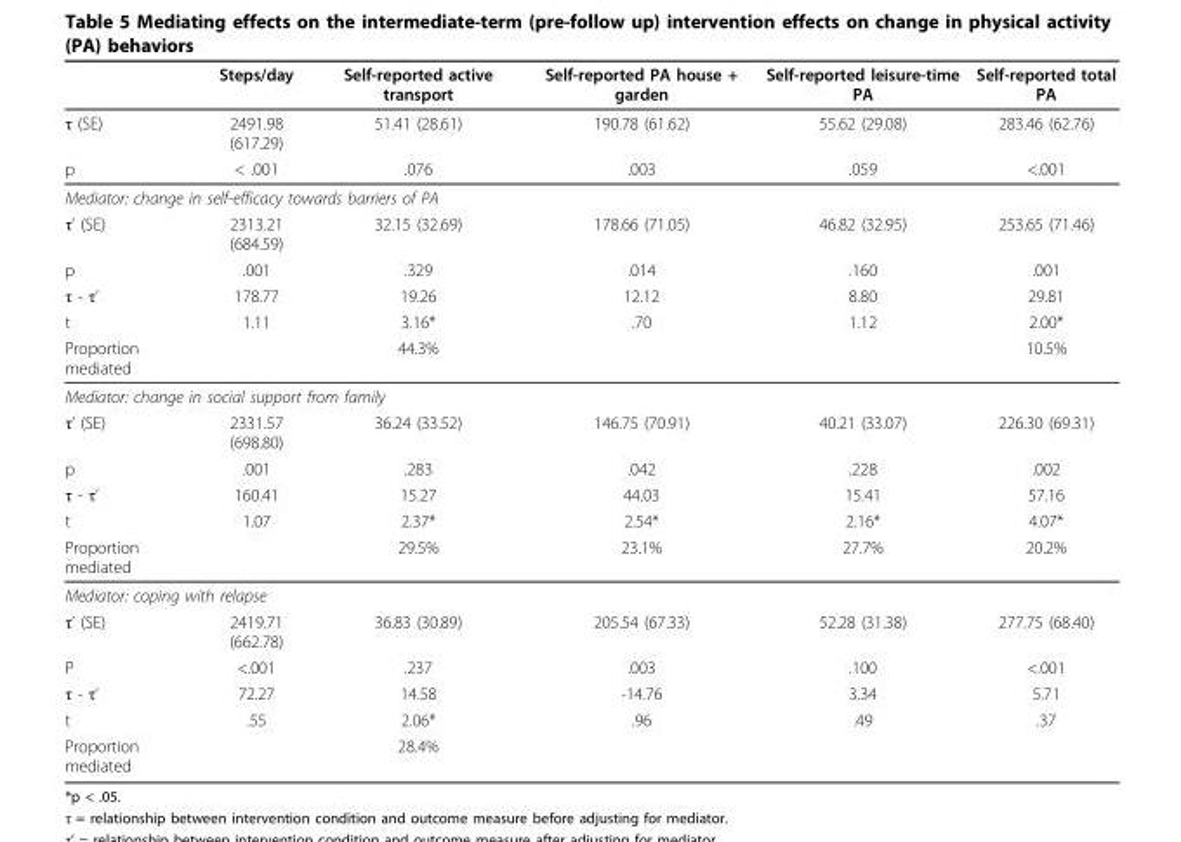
<table><thead><tr><td></td><td>Steps/day</td><td>Self-reported active transport</td><td>Self-reported PA house + garden</td><td>Self-reported leisure-time PA</td><td>Self-reported total PA</td></tr></thead><tbody><tr><td>τ (SE)</td><td>2491.98 (617.29)</td><td>51.41 (28.61)</td><td>190.78 (61.62)</td><td>55.62 (29.08)</td><td>283.46 (62.76)</td></tr><tr><td>p</td><td>&lt; .001</td><td>.076</td><td>.003</td><td>.059</td><td>&lt;.001</td></tr><tr><td colspan="6">Mediator: change in self-efficacy towards barriers of PA</td></tr><tr><td>τ’ (SE)</td><td>2313.21 (684.59)</td><td>32.15 (32.69)</td><td>178.66 (71.05)</td><td>46.82 (32.95)</td><td>253.65 (71.46)</td></tr><tr><td>p</td><td>.001</td><td>.329</td><td>.014</td><td>.160</td><td>.001</td></tr><tr><td>τ - τ’</td><td>178.77</td><td>19.26</td><td>12.12</td><td>8.80</td><td>29.81</td></tr><tr><td>t</td><td>1.11</td><td>3.16*</td><td>.70</td><td>1.12</td><td>2.00*</td></tr><tr><td>Proportion mediated</td><td></td><td>44.3%</td><td></td><td></td><td>10.5%</td></tr><tr><td colspan="6">Mediator: change in social support from family</td></tr><tr><td>τ’ (SE)</td><td>2331.57 (698.80)</td><td>36.24 (33.52)</td><td>146.75 (70.91)</td><td>40.21 (33.07)</td><td>226.30 (69.31)</td></tr><tr><td>p</td><td>.001</td><td>.283</td><td>.042</td><td>.228</td><td>.002</td></tr><tr><td>τ - τ’</td><td>160.41</td><td>15.27</td><td>44.03</td><td>15.41</td><td>57.16</td></tr><tr><td>t</td><td>1.07</td><td>2.37*</td><td>2.54*</td><td>2.16*</td><td>4.07*</td></tr><tr><td>Proportion mediated</td><td></td><td>29.5%</td><td>23.1%</td><td>27.7%</td><td>20.2%</td></tr><tr><td colspan="6">Mediator: coping with relapse</td></tr><tr><td>τ’ (SE)</td><td>2419.71 (662.78)</td><td>36.83 (30.89)</td><td>205.54 (67.33)</td><td>52.28 (31.38)</td><td>277.75 (68.40)</td></tr><tr><td>P</td><td>&lt;.001</td><td>.237</td><td>.003</td><td>.100</td><td>&lt;.001</td></tr><tr><td>τ - τ’</td><td>72.27</td><td>14.58</td><td>-14.76</td><td>3.34</td><td>5.71</td></tr><tr><td>t</td><td>.55</td><td>2.06*</td><td>.96</td><td>.49</td><td>.37</td></tr><tr><td>Proportion mediated</td><td></td><td>28.4%</td><td></td><td></td><td></td></tr></tbody></table>